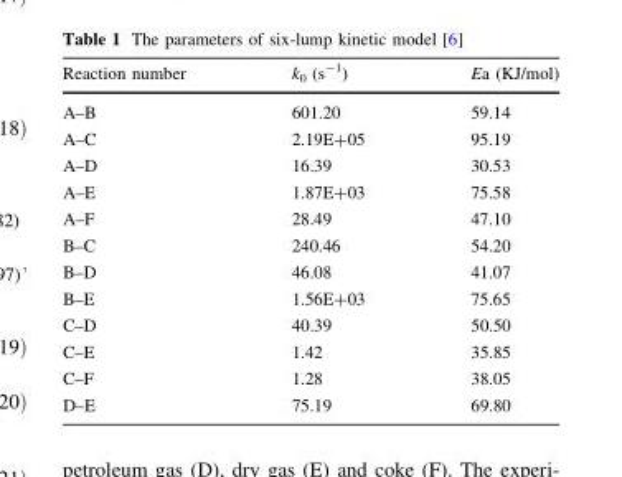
<table><thead><tr><td>Reaction number</td><td>k<sub>0</sub> (s<sup>-1</sup>)</td><td>Ea (KJ/mol)</td></tr></thead><tbody><tr><td>A–B</td><td>601.20</td><td>59.14</td></tr><tr><td>A–C</td><td>2.19E+05</td><td>95.19</td></tr><tr><td>A–D</td><td>16.39</td><td>30.53</td></tr><tr><td>A–E</td><td>1.87E+03</td><td>75.58</td></tr><tr><td>A–F</td><td>28.49</td><td>47.10</td></tr><tr><td>B–C</td><td>240.46</td><td>54.20</td></tr><tr><td>B–D</td><td>46.08</td><td>41.07</td></tr><tr><td>B–E</td><td>1.56E+03</td><td>75.65</td></tr><tr><td>C–D</td><td>40.39</td><td>50.50</td></tr><tr><td>C–E</td><td>1.42</td><td>35.85</td></tr><tr><td>C–F</td><td>1.28</td><td>38.05</td></tr><tr><td>D–E</td><td>75.19</td><td>69.80</td></tr></tbody></table>